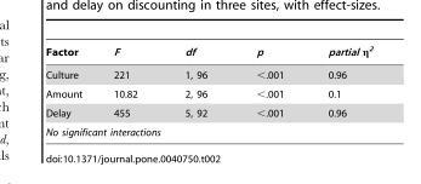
<table><thead><tr><td>Factor</td><td>F</td><td>df</td><td>p</td><td>partial η<sup>2</sup></td></tr></thead><tbody><tr><td>Culture</td><td>221</td><td>1, 96</td><td>&lt;.001</td><td>0.96</td></tr><tr><td>Amount</td><td>10.82</td><td>2, 96</td><td>&lt;.001</td><td>0.1</td></tr><tr><td>Delay</td><td>455</td><td>5, 92</td><td>&lt;.001</td><td>0.96</td></tr><tr><td colspan="5">No significant interactions</td></tr></tbody></table>